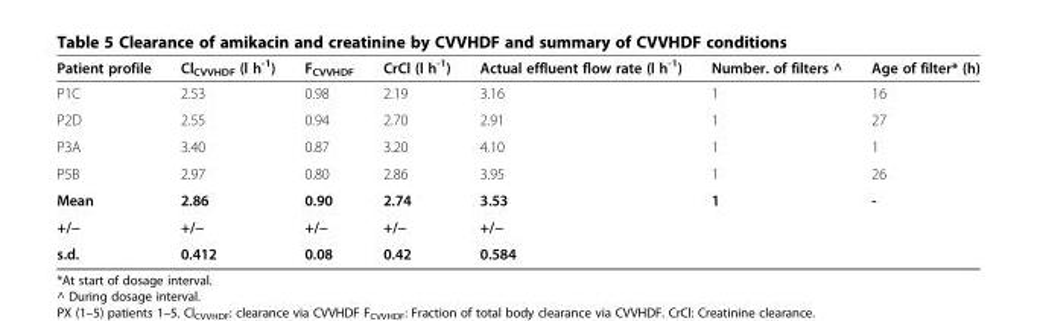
<table><thead><tr><td>Patient profile</td><td>Cl<sub>CVVHDF</sub> (l h<sup>-1</sup>)</td><td>F<sub>CVVHDF</sub></td><td>CrCl (l h<sup>-1</sup>)</td><td>Actual effluent flow rate (l h<sup>-1</sup>)</td><td>Number. of filters ^</td><td>Age of filter* (h)</td></tr></thead><tbody><tr><td>P1C</td><td>2.53</td><td>0.98</td><td>2.19</td><td>3.16</td><td>1</td><td>16</td></tr><tr><td>P2D</td><td>2.55</td><td>0.94</td><td>2.70</td><td>2.91</td><td>1</td><td>27</td></tr><tr><td>P3A</td><td>3.40</td><td>0.87</td><td>3.20</td><td>4.10</td><td>1</td><td>1</td></tr><tr><td>P5B</td><td>2.97</td><td>0.80</td><td>2.86</td><td>3.95</td><td>1</td><td>26</td></tr><tr><td>Mean</td><td>2.86</td><td>0.90</td><td>2.74</td><td>3.53</td><td>1</td><td>-</td></tr><tr><td>+/−</td><td>+/−</td><td>+/−</td><td>+/−</td><td>+/−</td><td></td><td></td></tr><tr><td>s.d.</td><td>0.412</td><td>0.08</td><td>0.42</td><td>0.584</td><td></td><td></td></tr></tbody></table>